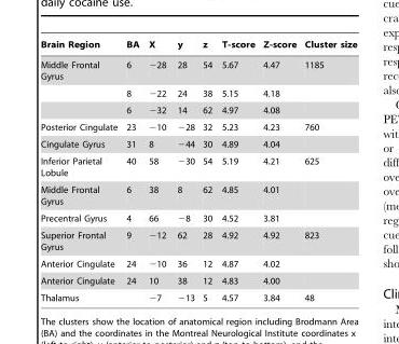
<table><thead><tr><td>Brain Region</td><td>BA</td><td>X</td><td>y</td><td>z</td><td>T-score</td><td>Z-score</td><td>Cluster size</td></tr></thead><tbody><tr><td rowspan="3">Middle Frontal Gyrus</td><td>6</td><td>−28</td><td>28</td><td>54</td><td>5.67</td><td>4.47</td><td>1185</td></tr><tr><td>8</td><td>−22</td><td>24</td><td>38</td><td>5.15</td><td>4.18</td><td></td></tr><tr><td>6</td><td>−32</td><td>14</td><td>62</td><td>4.97</td><td>4.08</td><td></td></tr><tr><td>Posterior Cingulate</td><td>23</td><td>−10</td><td>−28</td><td>32</td><td>5.23</td><td>4.23</td><td>760</td></tr><tr><td>Cingulate Gyrus</td><td>31</td><td>8</td><td>−44</td><td>30</td><td>4.89</td><td>4.04</td><td></td></tr><tr><td>Inferior Parietal Lobule</td><td>40</td><td>58</td><td>−30</td><td>54</td><td>5.19</td><td>4.21</td><td>625</td></tr><tr><td>Middle Frontal Gyrus</td><td>6</td><td>38</td><td>8</td><td>62</td><td>4.85</td><td>4.01</td><td></td></tr><tr><td>Precentral Gyrus</td><td>4</td><td>66</td><td>−8</td><td>30</td><td>4.52</td><td>3.81</td><td></td></tr><tr><td>Superior Frontal Gyrus</td><td>9</td><td>−12</td><td>62</td><td>28</td><td>4.92</td><td>4.92</td><td>823</td></tr><tr><td>Anterior Cingulate</td><td>24</td><td>−10</td><td>36</td><td>12</td><td>4.87</td><td>4.02</td><td></td></tr><tr><td>Anterior Cingulate</td><td>24</td><td>10</td><td>38</td><td>12</td><td>4.83</td><td>4.00</td><td></td></tr><tr><td>Thalamus</td><td></td><td>−7</td><td>−13</td><td>5</td><td>4.57</td><td>3.84</td><td>48</td></tr></tbody></table>